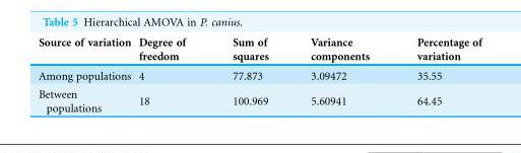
<table><thead><tr><td>Source of variation</td><td>Degree of freedom</td><td>Sum of squares</td><td>Variance components</td><td>Percentage of variation</td></tr></thead><tbody><tr><td>Among populations</td><td>4</td><td>77.873</td><td>3.09472</td><td>35.55</td></tr><tr><td>Between populations</td><td>18</td><td>100.969</td><td>5.60941</td><td>64.45</td></tr></tbody></table>